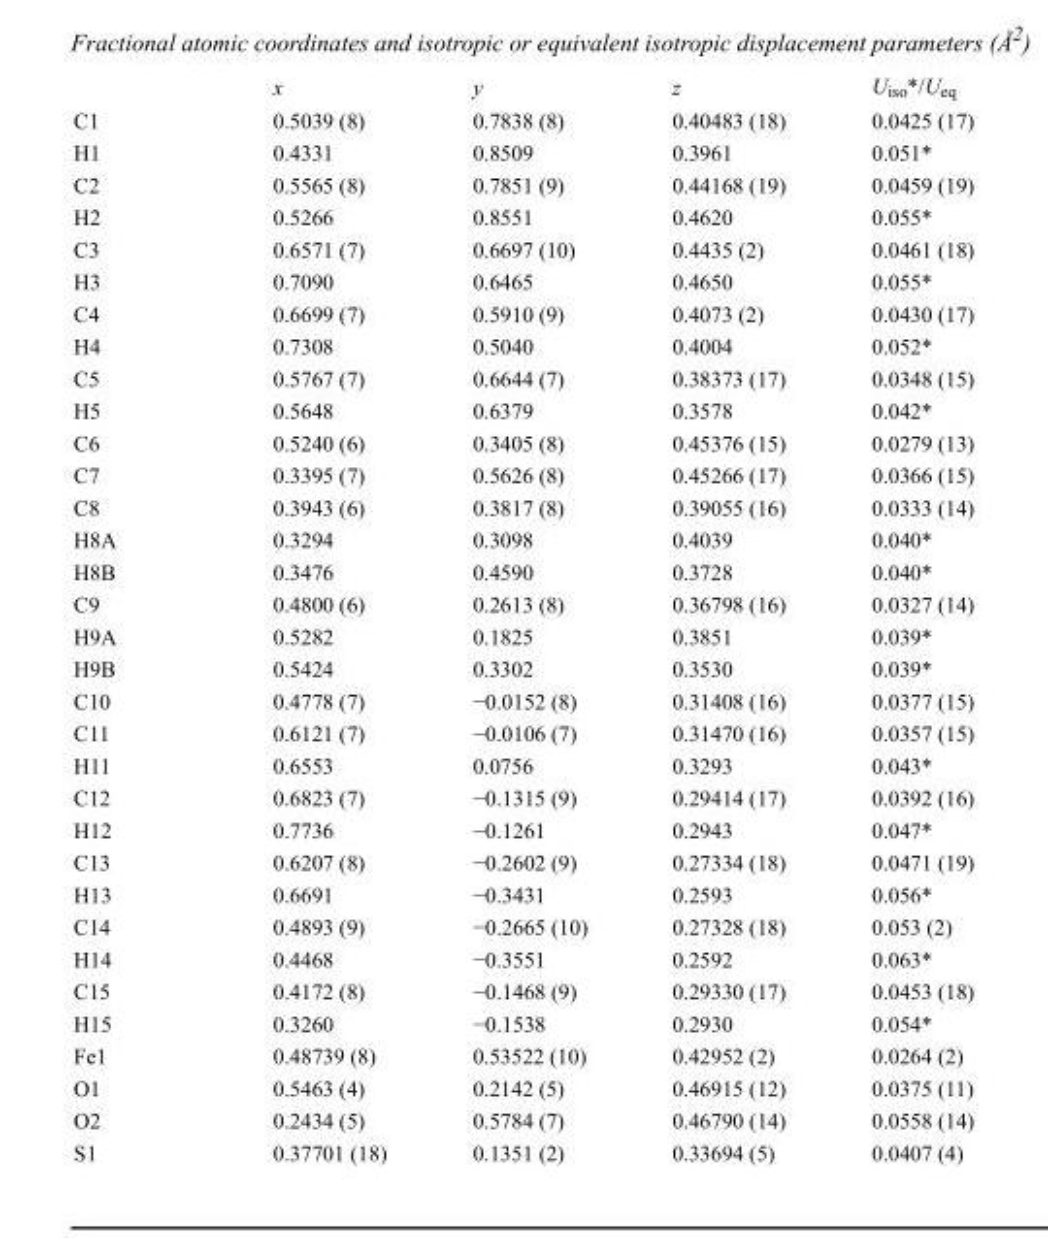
<table><thead><tr><td></td><td>x</td><td>y</td><td>z</td><td>U<sub>iso</sub>*/U<sub>eq</sub></td></tr></thead><tbody><tr><td>C1</td><td>0.5039 (8)</td><td>0.7838 (8)</td><td>0.40483 (18)</td><td>0.0425 (17)</td></tr><tr><td>H1</td><td>0.4331</td><td>0.8509</td><td>0.3961</td><td>0.051*</td></tr><tr><td>C2</td><td>0.5565 (8)</td><td>0.7851 (9)</td><td>0.44168 (19)</td><td>0.0459 (19)</td></tr><tr><td>H2</td><td>0.5266</td><td>0.8551</td><td>0.4620</td><td>0.055*</td></tr><tr><td>C3</td><td>0.6571 (7)</td><td>0.6697 (10)</td><td>0.4435 (2)</td><td>0.0461 (18)</td></tr><tr><td>H3</td><td>0.7090</td><td>0.6465</td><td>0.4650</td><td>0.055*</td></tr><tr><td>C4</td><td>0.6699 (7)</td><td>0.5910 (9)</td><td>0.4073 (2)</td><td>0.0430 (17)</td></tr><tr><td>H4</td><td>0.7308</td><td>0.5040</td><td>0.4004</td><td>0.052*</td></tr><tr><td>C5</td><td>0.5767 (7)</td><td>0.6644 (7)</td><td>0.38373 (17)</td><td>0.0348 (15)</td></tr><tr><td>H5</td><td>0.5648</td><td>0.6379</td><td>0.3578</td><td>0.042*</td></tr><tr><td>C6</td><td>0.5240 (6)</td><td>0.3405 (8)</td><td>0.45376 (15)</td><td>0.0279 (13)</td></tr><tr><td>C7</td><td>0.3395 (7)</td><td>0.5626 (8)</td><td>0.45266 (17)</td><td>0.0366 (15)</td></tr><tr><td>C8</td><td>0.3943 (6)</td><td>0.3817 (8)</td><td>0.39055 (16)</td><td>0.0333 (14)</td></tr><tr><td>H8A</td><td>0.3294</td><td>0.3098</td><td>0.4039</td><td>0.040*</td></tr><tr><td>H8B</td><td>0.3476</td><td>0.4590</td><td>0.3728</td><td>0.040*</td></tr><tr><td>C9</td><td>0.4800 (6)</td><td>0.2613 (8)</td><td>0.36798 (16)</td><td>0.0327 (14)</td></tr><tr><td>H9A</td><td>0.5282</td><td>0.1825</td><td>0.3851</td><td>0.039*</td></tr><tr><td>H9B</td><td>0.5424</td><td>0.3302</td><td>0.3530</td><td>0.039*</td></tr><tr><td>C10</td><td>0.4778 (7)</td><td>−0.0152 (8)</td><td>0.31408 (16)</td><td>0.0377 (15)</td></tr><tr><td>C11</td><td>0.6121 (7)</td><td>−0.0106 (7)</td><td>0.31470 (16)</td><td>0.0357 (15)</td></tr><tr><td>H11</td><td>0.6553</td><td>0.0756</td><td>0.3293</td><td>0.043*</td></tr><tr><td>C12</td><td>0.6823 (7)</td><td>−0.1315 (9)</td><td>0.29414 (17)</td><td>0.0392 (16)</td></tr><tr><td>H12</td><td>0.7736</td><td>−0.1261</td><td>0.2943</td><td>0.047*</td></tr><tr><td>C13</td><td>0.6207 (8)</td><td>−0.2602 (9)</td><td>0.27334 (18)</td><td>0.0471 (19)</td></tr><tr><td>H13</td><td>0.6691</td><td>−0.3431</td><td>0.2593</td><td>0.056*</td></tr><tr><td>C14</td><td>0.4893 (9)</td><td>−0.2665 (10)</td><td>0.27328 (18)</td><td>0.053 (2)</td></tr><tr><td>H14</td><td>0.4468</td><td>−0.3551</td><td>0.2592</td><td>0.063*</td></tr><tr><td>C15</td><td>0.4172 (8)</td><td>−0.1468 (9)</td><td>0.29330 (17)</td><td>0.0453 (18)</td></tr><tr><td>H15</td><td>0.3260</td><td>−0.1538</td><td>0.2930</td><td>0.054*</td></tr><tr><td>Fe1</td><td>0.48739 (8)</td><td>0.53522 (10)</td><td>0.42952 (2)</td><td>0.0264 (2)</td></tr><tr><td>O1</td><td>0.5463 (4)</td><td>0.2142 (5)</td><td>0.46915 (12)</td><td>0.0375 (11)</td></tr><tr><td>O2</td><td>0.2434 (5)</td><td>0.5784 (7)</td><td>0.46790 (14)</td><td>0.0558 (14)</td></tr><tr><td>S1</td><td>0.37701 (18)</td><td>0.1351 (2)</td><td>0.33694 (5)</td><td>0.0407 (4)</td></tr></tbody></table>